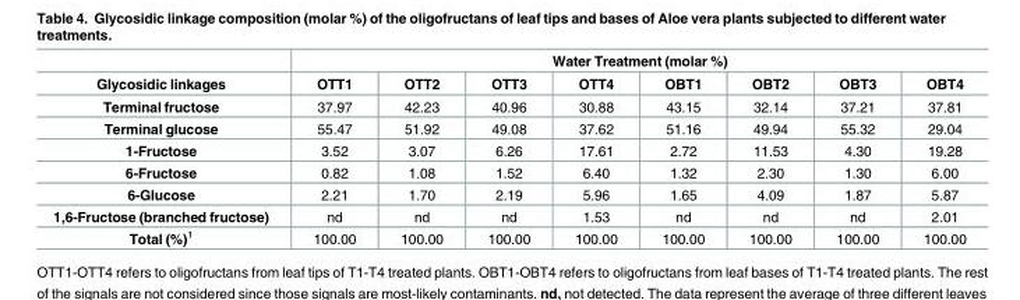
<table><thead><tr><td rowspan="2">Glycosidic linkages</td><td colspan="8">Water Treatment (molar %)</td></tr><tr><td>OTT1</td><td>OTT2</td><td>OTT3</td><td>OTT4</td><td>OBT1</td><td>OBT2</td><td>OBT3</td><td>OBT4</td></tr></thead><tbody><tr><td>Terminal fructose</td><td>37.97</td><td>42.23</td><td>40.96</td><td>30.88</td><td>43.15</td><td>32.14</td><td>37.21</td><td>37.81</td></tr><tr><td>Terminal glucose</td><td>55.47</td><td>51.92</td><td>49.08</td><td>37.62</td><td>51.16</td><td>49.94</td><td>55.32</td><td>29.04</td></tr><tr><td>1-Fructose</td><td>3.52</td><td>3.07</td><td>6.26</td><td>17.61</td><td>2.72</td><td>11.53</td><td>4.30</td><td>19.28</td></tr><tr><td>6-Fructose</td><td>0.82</td><td>1.08</td><td>1.52</td><td>6.40</td><td>1.32</td><td>2.30</td><td>1.30</td><td>6.00</td></tr><tr><td>6-Glucose</td><td>2.21</td><td>1.70</td><td>2.19</td><td>5.96</td><td>1.65</td><td>4.09</td><td>1.87</td><td>5.87</td></tr><tr><td>1,6-Fructose (branched fructose)</td><td>nd</td><td>nd</td><td>nd</td><td>1.53</td><td>nd</td><td>nd</td><td>nd</td><td>2.01</td></tr><tr><td>Total (%)<sup>1</sup></td><td>100.00</td><td>100.00</td><td>100.00</td><td>100.00</td><td>100.00</td><td>100.00</td><td>100.00</td><td>100.00</td></tr></tbody></table>